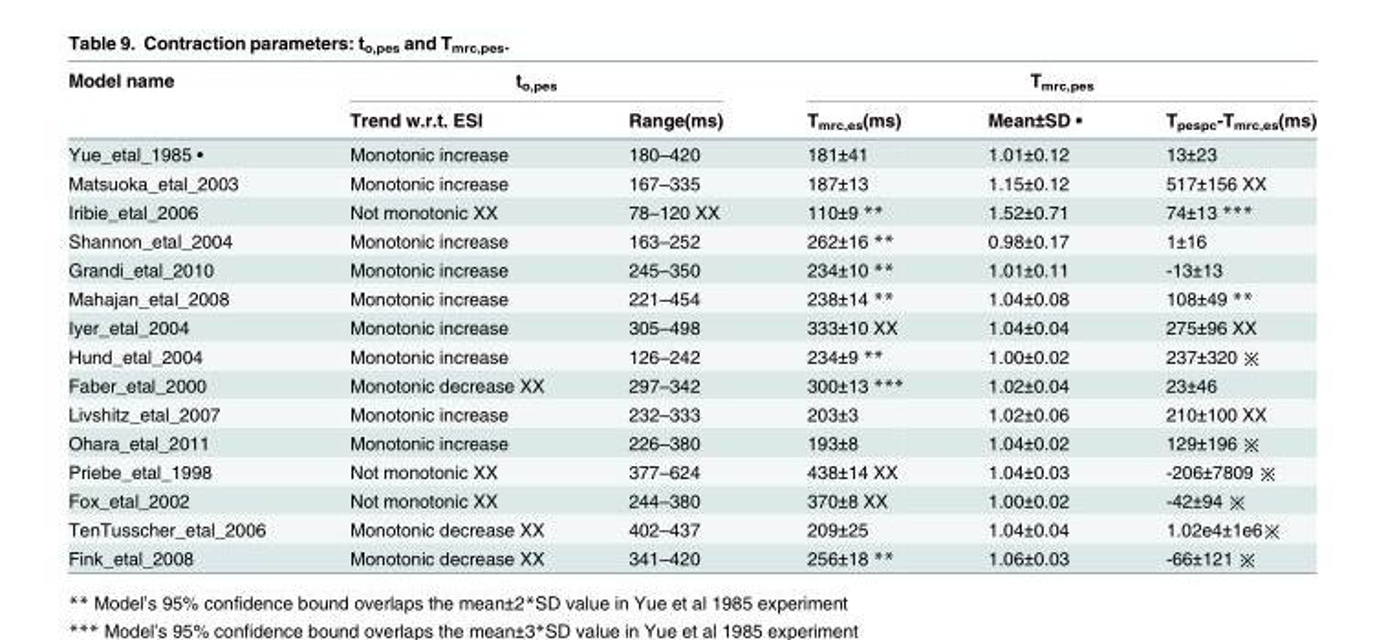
<table><thead><tr><td rowspan="2">Model name</td><td colspan="2">t<sub>o,pes</sub></td><td colspan="3">T<sub>mrc,pes</sub></td></tr><tr><td>Trend w.r.t. ESI</td><td>Range(ms)</td><td>T<sub>mrc,es</sub>(ms)</td><td>Mean±SD •</td><td>T<sub>pespc</sub>-T<sub>mrc,es</sub>(ms)</td></tr></thead><tbody><tr><td>Yue_etal_1985 •</td><td>Monotonic increase</td><td>180–420</td><td>181±41</td><td>1.01±0.12</td><td>13±23</td></tr><tr><td>Matsuoka_etal_2003</td><td>Monotonic increase</td><td>167–335</td><td>187±13</td><td>1.15±0.12</td><td>517±156 XX</td></tr><tr><td>Iribie_etal_2006</td><td>Not monotonic XX</td><td>78–120 XX</td><td>110±9 **</td><td>1.52±0.71</td><td>74±13 ***</td></tr><tr><td>Shannon_etal_2004</td><td>Monotonic increase</td><td>163–252</td><td>262±16 **</td><td>0.98±0.17</td><td>1±16</td></tr><tr><td>Grandi_etal_2010</td><td>Monotonic increase</td><td>245–350</td><td>234±10 **</td><td>1.01±0.11</td><td>-13±13</td></tr><tr><td>Mahajan_etal_2008</td><td>Monotonic increase</td><td>221–454</td><td>238±14 **</td><td>1.04±0.08</td><td>108±49 **</td></tr><tr><td>Iyer_etal_2004</td><td>Monotonic increase</td><td>305–498</td><td>333±10 XX</td><td>1.04±0.04</td><td>275±96 XX</td></tr><tr><td>Hund_etal_2004</td><td>Monotonic increase</td><td>126–242</td><td>234±9 **</td><td>1.00±0.02</td><td>237±320 ※</td></tr><tr><td>Faber_etal_2000</td><td>Monotonic decrease XX</td><td>297–342</td><td>300±13 ***</td><td>1.02±0.04</td><td>23±46</td></tr><tr><td>Livshitz_etal_2007</td><td>Monotonic increase</td><td>232–333</td><td>203±3</td><td>1.02±0.06</td><td>210±100 XX</td></tr><tr><td>Ohara_etal_2011</td><td>Monotonic increase</td><td>226–380</td><td>193±8</td><td>1.04±0.02</td><td>129±196 ※</td></tr><tr><td>Priebe_etal_1998</td><td>Not monotonic XX</td><td>377–624</td><td>438±14 XX</td><td>1.04±0.03</td><td>-206±7809 ※</td></tr><tr><td>Fox_etal_2002</td><td>Not monotonic XX</td><td>244–380</td><td>370±8 XX</td><td>1.00±0.02</td><td>-42±94 ※</td></tr><tr><td>TenTusscher_etal_2006</td><td>Monotonic decrease XX</td><td>402–437</td><td>209±25</td><td>1.04±0.04</td><td>1.02e4±1e6※</td></tr><tr><td>Fink_etal_2008</td><td>Monotonic decrease XX</td><td>341–420</td><td>256±18 **</td><td>1.06±0.03</td><td>-66±121 ※</td></tr></tbody></table>